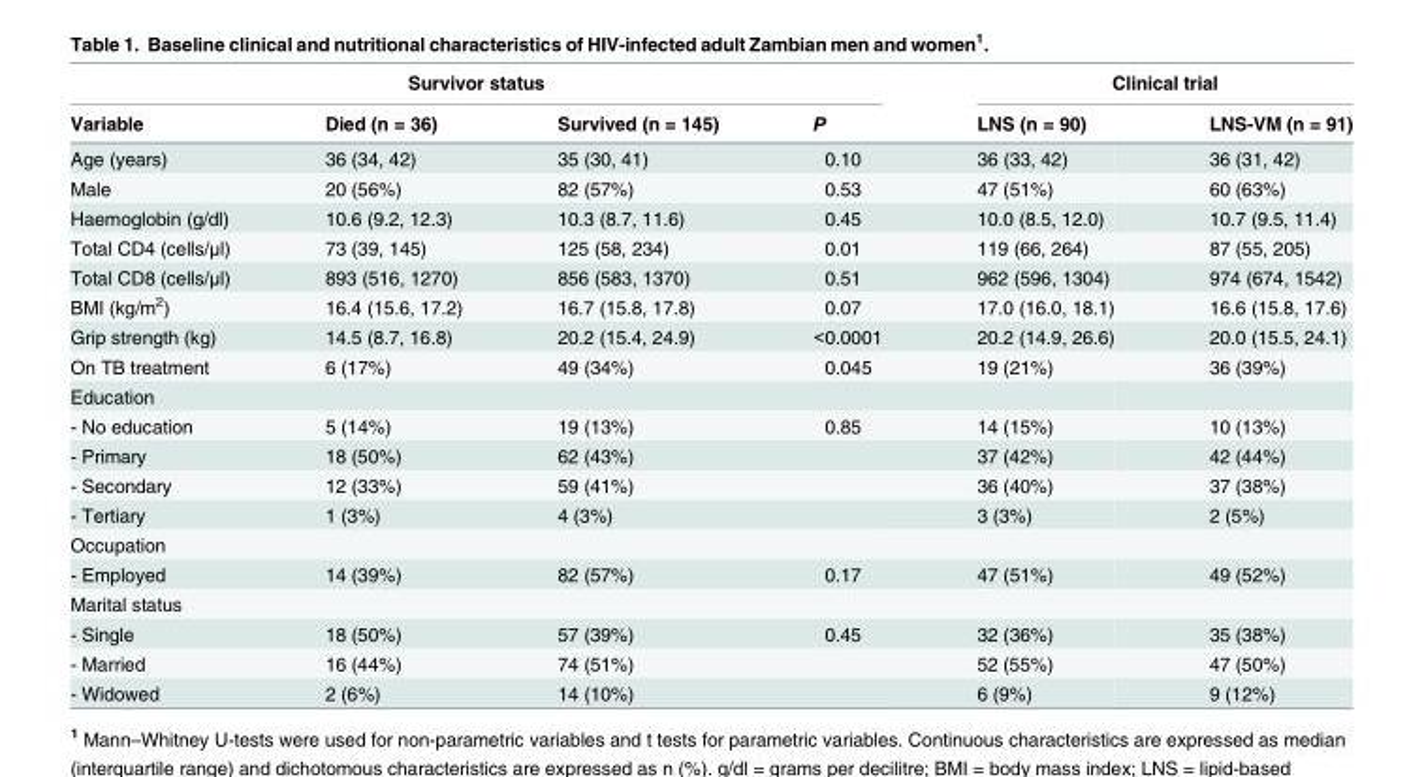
<table><thead><tr><td colspan="4">Survivor status</td><td colspan="2">Clinical trial</td></tr><tr><td>Variable</td><td>Died (n = 36)</td><td>Survived (n = 145)</td><td>P</td><td>LNS (n = 90)</td><td>LNS-VM (n = 91)</td></tr></thead><tbody><tr><td>Age (years)</td><td>36 (34, 42)</td><td>35 (30, 41)</td><td>0.10</td><td>36 (33, 42)</td><td>36 (31, 42)</td></tr><tr><td>Male</td><td>20 (56%)</td><td>82 (57%)</td><td>0.53</td><td>47 (51%)</td><td>60 (63%)</td></tr><tr><td>Haemoglobin (g/dl)</td><td>10.6 (9.2, 12.3)</td><td>10.3 (8.7, 11.6)</td><td>0.45</td><td>10.0 (8.5, 12.0)</td><td>10.7 (9.5, 11.4)</td></tr><tr><td>Total CD4 (cells/μl)</td><td>73 (39, 145)</td><td>125 (58, 234)</td><td>0.01</td><td>119 (66, 264)</td><td>87 (55, 205)</td></tr><tr><td>Total CD8 (cells/μl)</td><td>893 (516, 1270)</td><td>856 (583, 1370)</td><td>0.51</td><td>962 (596, 1304)</td><td>974 (674, 1542)</td></tr><tr><td>BMI (kg/m<sup>2</sup>)</td><td>16.4 (15.6, 17.2)</td><td>16.7 (15.8, 17.8)</td><td>0.07</td><td>17.0 (16.0, 18.1)</td><td>16.6 (15.8, 17.6)</td></tr><tr><td>Grip strength (kg)</td><td>14.5 (8.7, 16.8)</td><td>20.2 (15.4, 24.9)</td><td>&lt;0.0001</td><td>20.2 (14.9, 26.6)</td><td>20.0 (15.5, 24.1)</td></tr><tr><td>On TB treatment</td><td>6 (17%)</td><td>49 (34%)</td><td>0.045</td><td>19 (21%)</td><td>36 (39%)</td></tr><tr><td colspan="6">Education</td></tr><tr><td>- No education</td><td>5 (14%)</td><td>19 (13%)</td><td>0.85</td><td>14 (15%)</td><td>10 (13%)</td></tr><tr><td>- Primary</td><td>18 (50%)</td><td>62 (43%)</td><td></td><td>37 (42%)</td><td>42 (44%)</td></tr><tr><td>- Secondary</td><td>12 (33%)</td><td>59 (41%)</td><td></td><td>36 (40%)</td><td>37 (38%)</td></tr><tr><td>- Tertiary</td><td>1 (3%)</td><td>4 (3%)</td><td></td><td>3 (3%)</td><td>2 (5%)</td></tr><tr><td colspan="6">Occupation</td></tr><tr><td>- Employed</td><td>14 (39%)</td><td>82 (57%)</td><td>0.17</td><td>47 (51%)</td><td>49 (52%)</td></tr><tr><td colspan="6">Marital status</td></tr><tr><td>- Single</td><td>18 (50%)</td><td>57 (39%)</td><td>0.45</td><td>32 (36%)</td><td>35 (38%)</td></tr><tr><td>- Married</td><td>16 (44%)</td><td>74 (51%)</td><td></td><td>52 (55%)</td><td>47 (50%)</td></tr><tr><td>- Widowed</td><td>2 (6%)</td><td>14 (10%)</td><td></td><td>6 (9%)</td><td>9 (12%)</td></tr></tbody></table>